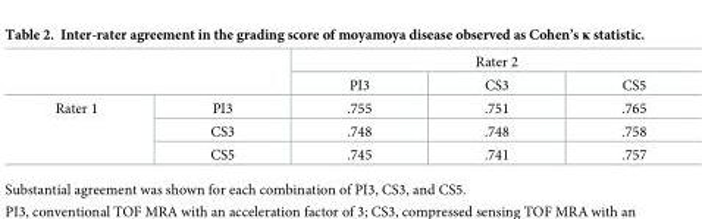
<table><thead><tr><td rowspan="2"></td><td rowspan="2"></td><td colspan="3">Rater 2</td></tr><tr><td>PI3</td><td>CS3</td><td>CS5</td></tr></thead><tbody><tr><td rowspan="3">Rater 1</td><td>PI3</td><td>.755</td><td>.751</td><td>.765</td></tr><tr><td>CS3</td><td>.748</td><td>.748</td><td>.758</td></tr><tr><td>CS5</td><td>.745</td><td>.741</td><td>.757</td></tr></tbody></table>